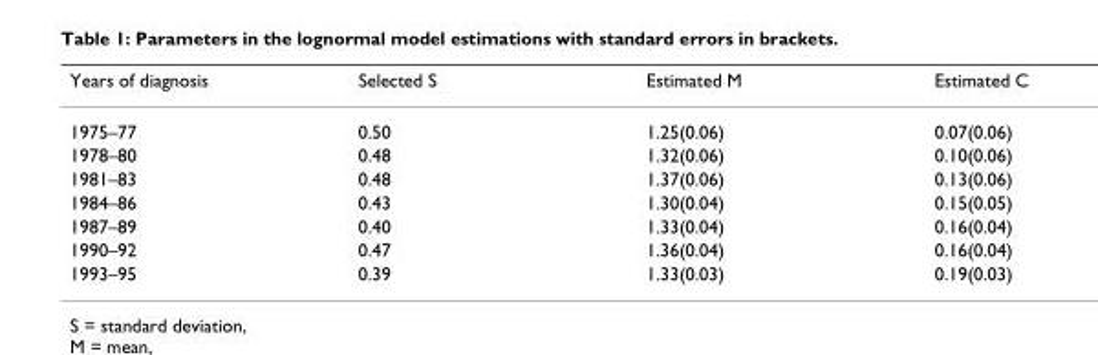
<table><thead><tr><td>Years of diagnosis</td><td>Selected S</td><td>Estimated M</td><td>Estimated C</td></tr></thead><tbody><tr><td>1975–77</td><td>0.50</td><td>1.25(0.06)</td><td>0.07(0.06)</td></tr><tr><td>1978–80</td><td>0.48</td><td>1.32(0.06)</td><td>0.10(0.06)</td></tr><tr><td>1981–83</td><td>0.48</td><td>1.37(0.06)</td><td>0.13(0.06)</td></tr><tr><td>1984–86</td><td>0.43</td><td>1.30(0.04)</td><td>0.15(0.05)</td></tr><tr><td>1987–89</td><td>0.40</td><td>1.33(0.04)</td><td>0.16(0.04)</td></tr><tr><td>1990–92</td><td>0.47</td><td>1.36(0.04)</td><td>0.16(0.04)</td></tr><tr><td>1993–95</td><td>0.39</td><td>1.33(0.03)</td><td>0.19(0.03)</td></tr></tbody></table>